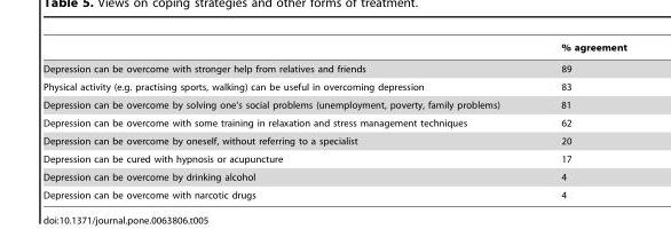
<table><thead><tr><td></td><td>% agreement</td></tr></thead><tbody><tr><td>Depression can be overcome with stronger help from relatives and friends</td><td>89</td></tr><tr><td>Physical activity (e.g. practising sports, walking) can be useful in overcoming depression</td><td>83</td></tr><tr><td>Depression can be overcome by solving one’s social problems (unemployment, poverty, family problems)</td><td>81</td></tr><tr><td>Depression can be overcome with some training in relaxation and stress management techniques</td><td>62</td></tr><tr><td>Depression can be overcome by oneself, without referring to a specialist</td><td>20</td></tr><tr><td>Depression can be cured with hypnosis or acupuncture</td><td>17</td></tr><tr><td>Depression can be overcome by drinking alcohol</td><td>4</td></tr><tr><td>Depression can be overcome with narcotic drugs</td><td>4</td></tr></tbody></table>